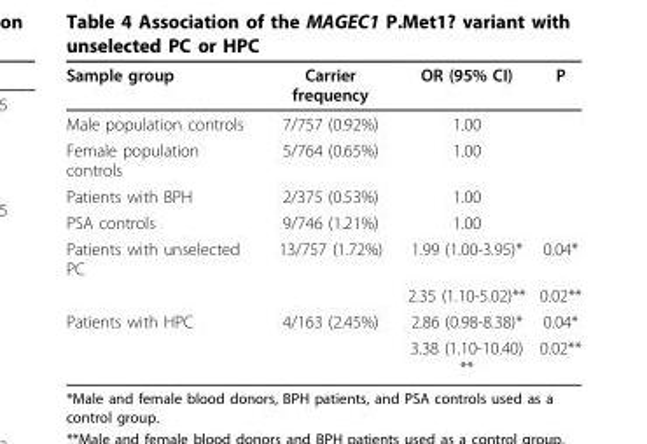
<table><thead><tr><td>Sample group</td><td>Carrier frequency</td><td>OR (95% CI)</td><td>P</td></tr></thead><tbody><tr><td>Male population controls</td><td>7/757 (0.92%)</td><td>1.00</td><td></td></tr><tr><td>Female population controls</td><td>5/764 (0.65%)</td><td>1.00</td><td></td></tr><tr><td>Patients with BPH</td><td>2/375 (0.53%)</td><td>1.00</td><td></td></tr><tr><td>PSA controls</td><td>9/746 (1.21%)</td><td>1.00</td><td></td></tr><tr><td rowspan="2">Patients with unselected PC</td><td>13/757 (1.72%)</td><td>1.99 (1.00-3.95)*</td><td>0.04*</td></tr><tr><td></td><td>2.35 (1.10-5.02)**</td><td>0.02**</td></tr><tr><td rowspan="2">Patients with HPC</td><td>4/163 (2.45%)</td><td>2.86 (0.98-8.38)*</td><td>0.04*</td></tr><tr><td></td><td>3.38 (1.10-10.40) **</td><td>0.02**</td></tr></tbody></table>